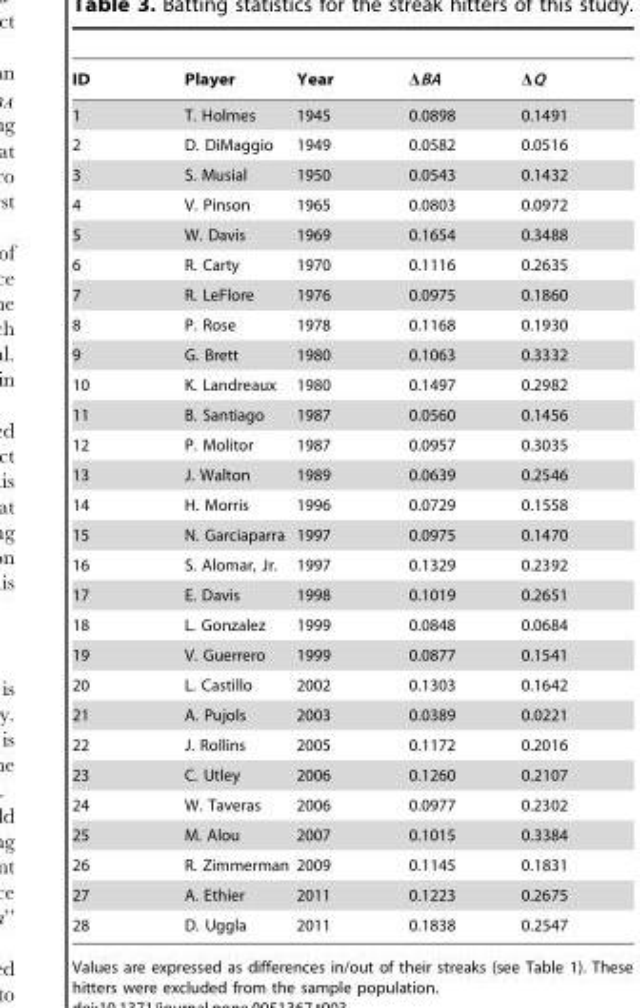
<table><thead><tr><td>ID</td><td>Player</td><td>Year</td><td>ΔBA</td><td>ΔQ</td></tr></thead><tbody><tr><td>1</td><td>T. Holmes</td><td>1945</td><td>0.0898</td><td>0.1491</td></tr><tr><td>2</td><td>D. DiMaggio</td><td>1949</td><td>0.0582</td><td>0.0516</td></tr><tr><td>3</td><td>S. Musial</td><td>1950</td><td>0.0543</td><td>0.1432</td></tr><tr><td>4</td><td>V. Pinson</td><td>1965</td><td>0.0803</td><td>0.0972</td></tr><tr><td>5</td><td>W. Davis</td><td>1969</td><td>0.1654</td><td>0.3488</td></tr><tr><td>6</td><td>R. Carty</td><td>1970</td><td>0.1116</td><td>0.2635</td></tr><tr><td>7</td><td>R. LeFlore</td><td>1976</td><td>0.0975</td><td>0.1860</td></tr><tr><td>8</td><td>P. Rose</td><td>1978</td><td>0.1168</td><td>0.1930</td></tr><tr><td>9</td><td>G. Brett</td><td>1980</td><td>0.1063</td><td>0.3332</td></tr><tr><td>10</td><td>K. Landreaux</td><td>1980</td><td>0.1497</td><td>0.2982</td></tr><tr><td>11</td><td>B. Santiago</td><td>1987</td><td>0.0560</td><td>0.1456</td></tr><tr><td>12</td><td>P. Molitor</td><td>1987</td><td>0.0957</td><td>0.3035</td></tr><tr><td>13</td><td>J. Walton</td><td>1989</td><td>0.0639</td><td>0.2546</td></tr><tr><td>14</td><td>H. Morris</td><td>1996</td><td>0.0729</td><td>0.1558</td></tr><tr><td>15</td><td>N. Garciaparra</td><td>1997</td><td>0.0975</td><td>0.1470</td></tr><tr><td>16</td><td>S. Alomar, Jr.</td><td>1997</td><td>0.1329</td><td>0.2392</td></tr><tr><td>17</td><td>E. Davis</td><td>1998</td><td>0.1019</td><td>0.2651</td></tr><tr><td>18</td><td>L. Gonzalez</td><td>1999</td><td>0.0848</td><td>0.0684</td></tr><tr><td>19</td><td>V. Guerrero</td><td>1999</td><td>0.0877</td><td>0.1541</td></tr><tr><td>20</td><td>L. Castillo</td><td>2002</td><td>0.1303</td><td>0.1642</td></tr><tr><td>21</td><td>A. Pujols</td><td>2003</td><td>0.0389</td><td>0.0221</td></tr><tr><td>22</td><td>J. Rollins</td><td>2005</td><td>0.1172</td><td>0.2016</td></tr><tr><td>23</td><td>C. Utley</td><td>2006</td><td>0.1260</td><td>0.2107</td></tr><tr><td>24</td><td>W. Taveras</td><td>2006</td><td>0.0977</td><td>0.2302</td></tr><tr><td>25</td><td>M. Alou</td><td>2007</td><td>0.1015</td><td>0.3384</td></tr><tr><td>26</td><td>R. Zimmerman</td><td>2009</td><td>0.1145</td><td>0.1831</td></tr><tr><td>27</td><td>A. Ethier</td><td>2011</td><td>0.1223</td><td>0.2675</td></tr><tr><td>28</td><td>D. Uggla</td><td>2011</td><td>0.1838</td><td>0.2547</td></tr></tbody></table>